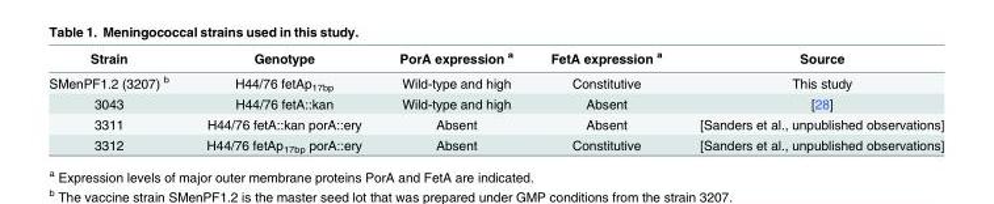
<table><thead><tr><td>Strain</td><td>Genotype</td><td>PorA expression <sup>a</sup></td><td>FetA expression <sup>a</sup></td><td>Source</td></tr></thead><tbody><tr><td>SMenPF1.2 (3207) <sup>b</sup></td><td>H44/76 fetAp<sub>17bp</sub></td><td>Wild-type and high</td><td>Constitutive</td><td>This study</td></tr><tr><td>3043</td><td>H44/76 fetA::kan</td><td>Wild-type and high</td><td>Absent</td><td>[28]</td></tr><tr><td>3311</td><td>H44/76 fetA::kan porA::ery</td><td>Absent</td><td>Absent</td><td>[Sanders et al., unpublished observations]</td></tr><tr><td>3312</td><td>H44/76 fetAp<sub>17bp</sub> porA::ery</td><td>Absent</td><td>Constitutive</td><td>[Sanders et al., unpublished observations]</td></tr></tbody></table>